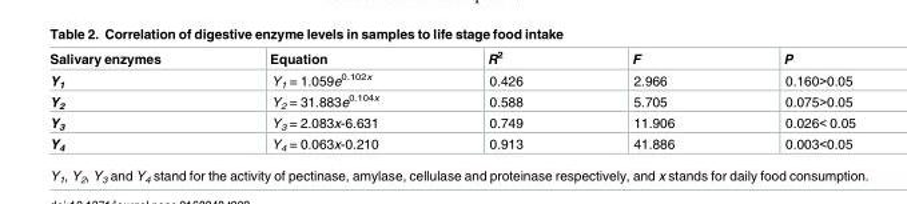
<table><thead><tr><td>Salivary enzymes</td><td>Equation</td><td>R<sup>2</sup></td><td>F</td><td>P</td></tr></thead><tbody><tr><td>Y<sub>1</sub></td><td>Y<sub>1</sub> = 1.059e<sup>0.102x</sup></td><td>0.426</td><td>2.966</td><td>0.160&gt;0.05</td></tr><tr><td>Y<sub>2</sub></td><td>Y<sub>2</sub> = 31.883e<sup>0.104x</sup></td><td>0.588</td><td>5.705</td><td>0.075&gt;0.05</td></tr><tr><td>Y<sub>3</sub></td><td>Y<sub>3</sub> = 2.083x-6.631</td><td>0.749</td><td>11.906</td><td>0.026&lt; 0.05</td></tr><tr><td>Y<sub>4</sub></td><td>Y<sub>4</sub> = 0.063x-0.210</td><td>0.913</td><td>41.886</td><td>0.003&lt;0.05</td></tr></tbody></table>